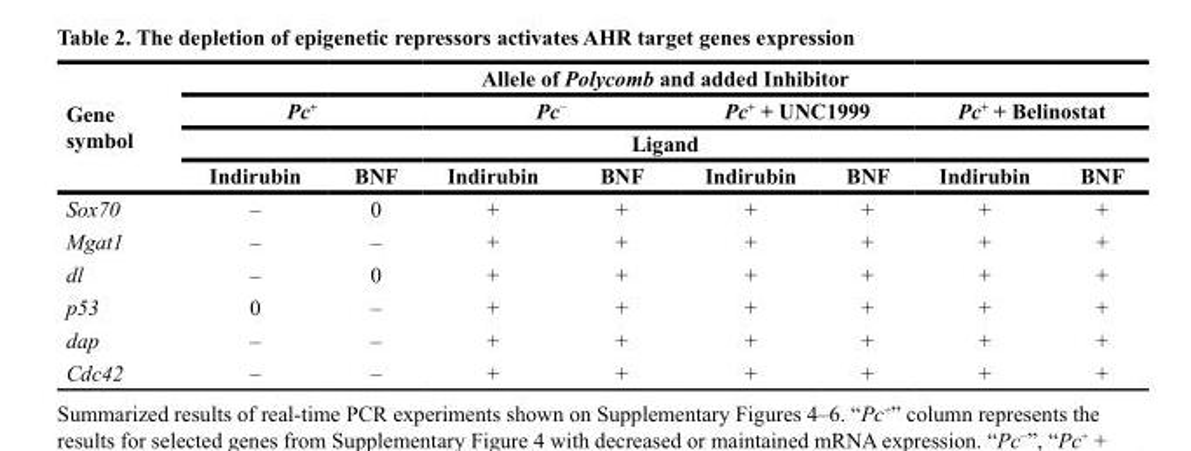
<table><thead><tr><td rowspan="4">Gene symbol</td><td colspan="8">Allele of Polycomb and added Inhibitor</td></tr><tr><td colspan="2">Pc<sup>+</sup></td><td colspan="2">Pc<sup>−</sup></td><td colspan="2">Pc<sup>+</sup> + UNC1999</td><td colspan="2">Pc<sup>+</sup> + Belinostat</td></tr><tr><td colspan="8">Ligand</td></tr><tr><td>Indirubin</td><td>BNF</td><td>Indirubin</td><td>BNF</td><td>Indirubin</td><td>BNF</td><td>Indirubin</td><td>BNF</td></tr></thead><tbody><tr><td>Sox70</td><td>–</td><td>0</td><td>+</td><td>+</td><td>+</td><td>+</td><td>+</td><td>+</td></tr><tr><td>Mgat1</td><td>–</td><td>–</td><td>+</td><td>+</td><td>+</td><td>+</td><td>+</td><td>+</td></tr><tr><td>dl</td><td>–</td><td>0</td><td>+</td><td>+</td><td>+</td><td>+</td><td>+</td><td>+</td></tr><tr><td>p53</td><td>0</td><td>–</td><td>+</td><td>+</td><td>+</td><td>+</td><td>+</td><td>+</td></tr><tr><td>dаp</td><td>–</td><td>–</td><td>+</td><td>+</td><td>+</td><td>+</td><td>+</td><td>+</td></tr><tr><td>Сdc42</td><td>–</td><td>–</td><td>+</td><td>+</td><td>+</td><td>+</td><td>+</td><td>+</td></tr></tbody></table>